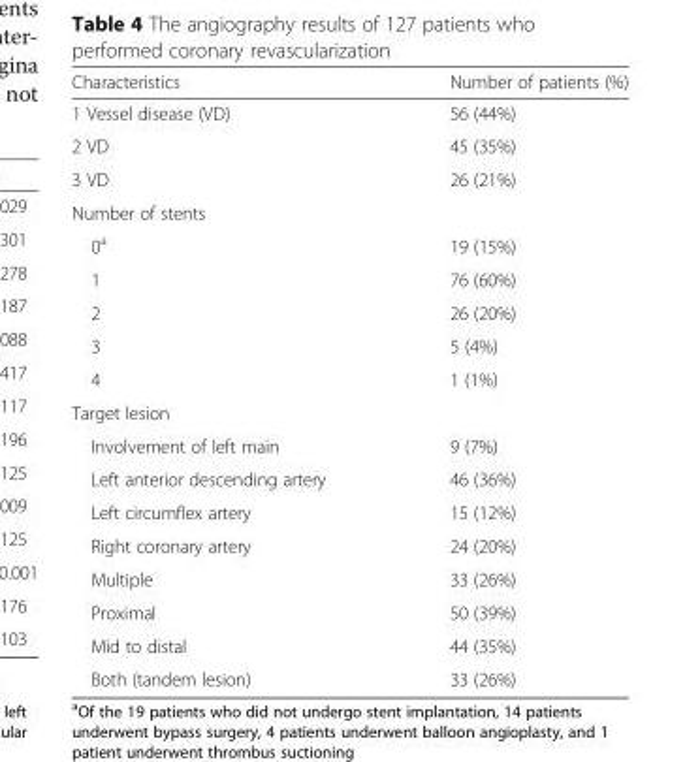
<table><thead><tr><td>Characteristics</td><td>Number of patients (%)</td></tr></thead><tbody><tr><td>1 Vessel disease (VD)</td><td>56 (44%)</td></tr><tr><td>2 VD</td><td>45 (35%)</td></tr><tr><td>3 VD</td><td>26 (21%)</td></tr><tr><td colspan="2">Number of stents</td></tr><tr><td>0<sup>a</sup></td><td>19 (15%)</td></tr><tr><td>1</td><td>76 (60%)</td></tr><tr><td>2</td><td>26 (20%)</td></tr><tr><td>3</td><td>5 (4%)</td></tr><tr><td>4</td><td>1 (1%)</td></tr><tr><td colspan="2">Target lesion</td></tr><tr><td>Involvement of left main</td><td>9 (7%)</td></tr><tr><td>Left anterior descending artery</td><td>46 (36%)</td></tr><tr><td>Left circumflex artery</td><td>15 (12%)</td></tr><tr><td>Right coronary artery</td><td>24 (20%)</td></tr><tr><td>Multiple</td><td>33 (26%)</td></tr><tr><td>Proximal</td><td>50 (39%)</td></tr><tr><td>Mid to distal</td><td>44 (35%)</td></tr><tr><td>Both (tandem lesion)</td><td>33 (26%)</td></tr></tbody></table>